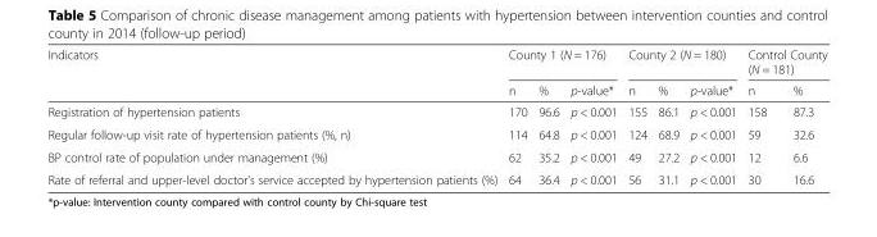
<table><thead><tr><td rowspan="2">Indicators</td><td colspan="3">County 1 (N = 176)</td><td colspan="3">County 2 (N = 180)</td><td colspan="2">Control County (N = 181)</td></tr><tr><td>n</td><td>%</td><td>p-value*</td><td>n</td><td>%</td><td>p-value*</td><td>n</td><td>%</td></tr></thead><tbody><tr><td>Registration of hypertension patients</td><td>170</td><td>96.6</td><td>p &lt; 0.001</td><td>155</td><td>86.1</td><td>p &lt; 0.001</td><td>158</td><td>87.3</td></tr><tr><td>Regular follow-up visit rate of hypertension patients (%, n)</td><td>114</td><td>64.8</td><td>p &lt; 0.001</td><td>124</td><td>68.9</td><td>p &lt; 0.001</td><td>59</td><td>32.6</td></tr><tr><td>BP control rate of population under management (%)</td><td>62</td><td>35.2</td><td>p &lt; 0.001</td><td>49</td><td>27.2</td><td>p &lt; 0.001</td><td>12</td><td>6.6</td></tr><tr><td>Rate of referral and upper-level doctor’s service accepted by hypertension patients (%)</td><td>64</td><td>36.4</td><td>p &lt; 0.001</td><td>56</td><td>31.1</td><td>p &lt; 0.001</td><td>30</td><td>16.6</td></tr></tbody></table>